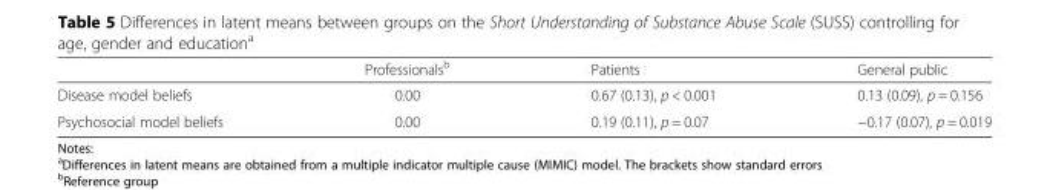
<table><thead><tr><td></td><td>Professionals<sup>b</sup></td><td>Patients</td><td>General public</td></tr></thead><tbody><tr><td>Disease model beliefs</td><td>0.00</td><td>0.67 (0.13), p &lt; 0.001</td><td>0.13 (0.09), p = 0.156</td></tr><tr><td>Psychosocial model beliefs</td><td>0.00</td><td>0.19 (0.11), p = 0.07</td><td>−0.17 (0.07), p = 0.019</td></tr></tbody></table>